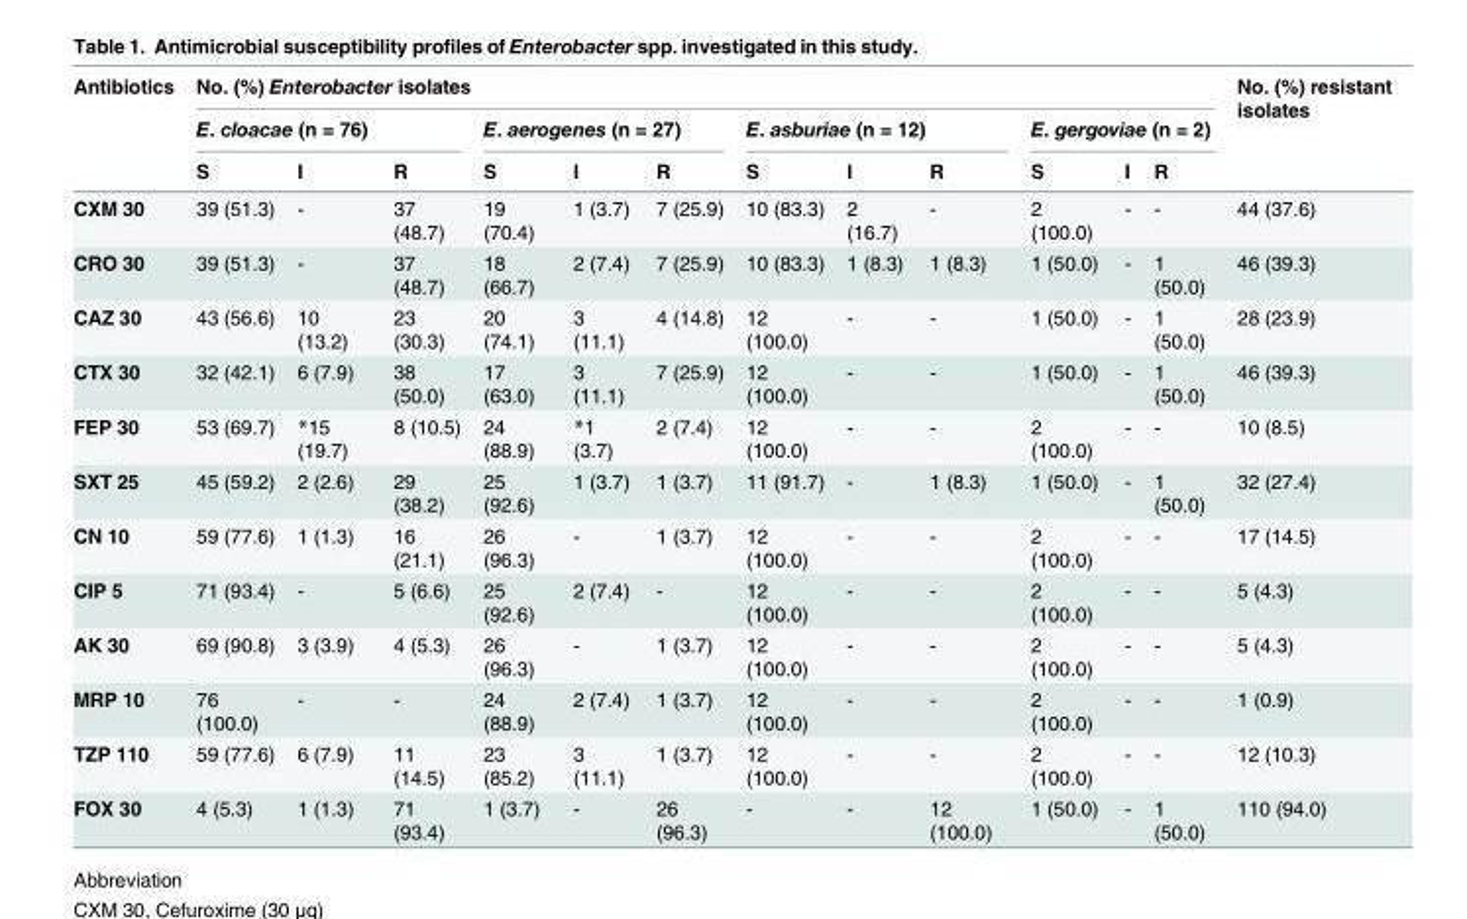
<table><thead><tr><td rowspan="3">Antibiotics</td><td colspan="12">No. (%) Enterobacter isolates</td><td rowspan="3">No. (%) resistant isolates</td></tr><tr><td colspan="3">E. cloacae (n = 76)</td><td colspan="3">E. aerogenes (n = 27)</td><td colspan="3">E. asburiae (n = 12)</td><td colspan="3">E. gergoviae (n = 2)</td></tr><tr><td>S</td><td>I</td><td>R</td><td>S</td><td>I</td><td>R</td><td>S</td><td>I</td><td>R</td><td>S</td><td>I</td><td>R</td></tr></thead><tbody><tr><td>CXM 30</td><td>39 (51.3)</td><td>-</td><td>37 (48.7)</td><td>19 (70.4)</td><td>1 (3.7)</td><td>7 (25.9)</td><td>10 (83.3)</td><td>2 (16.7)</td><td>-</td><td>2 (100.0)</td><td>-</td><td>-</td><td>44 (37.6)</td></tr><tr><td>CRO 30</td><td>39 (51.3)</td><td>-</td><td>37 (48.7)</td><td>18 (66.7)</td><td>2 (7.4)</td><td>7 (25.9)</td><td>10 (83.3)</td><td>1 (8.3)</td><td>1 (8.3)</td><td>1 (50.0)</td><td>-</td><td>1 (50.0)</td><td>46 (39.3)</td></tr><tr><td>CAZ 30</td><td>43 (56.6)</td><td>10 (13.2)</td><td>23 (30.3)</td><td>20 (74.1)</td><td>3 (11.1)</td><td>4 (14.8)</td><td>12 (100.0)</td><td>-</td><td>-</td><td>1 (50.0)</td><td>-</td><td>1 (50.0)</td><td>28 (23.9)</td></tr><tr><td>CTX 30</td><td>32 (42.1)</td><td>6 (7.9)</td><td>38 (50.0)</td><td>17 (63.0)</td><td>3 (11.1)</td><td>7 (25.9)</td><td>12 (100.0)</td><td>-</td><td>-</td><td>1 (50.0)</td><td>-</td><td>1 (50.0)</td><td>46 (39.3)</td></tr><tr><td>FEP 30</td><td>53 (69.7)</td><td>*15 (19.7)</td><td>8 (10.5)</td><td>24 (88.9)</td><td>*1 (3.7)</td><td>2 (7.4)</td><td>12 (100.0)</td><td>-</td><td>-</td><td>2 (100.0)</td><td>-</td><td>-</td><td>10 (8.5)</td></tr><tr><td>SXT 25</td><td>45 (59.2)</td><td>2 (2.6)</td><td>29 (38.2)</td><td>25 (92.6)</td><td>1 (3.7)</td><td>1 (3.7)</td><td>11 (91.7)</td><td>-</td><td>1 (8.3)</td><td>1 (50.0)</td><td>-</td><td>1 (50.0)</td><td>32 (27.4)</td></tr><tr><td>CN 10</td><td>59 (77.6)</td><td>1 (1.3)</td><td>16 (21.1)</td><td>26 (96.3)</td><td>-</td><td>1 (3.7)</td><td>12 (100.0)</td><td>-</td><td>-</td><td>2 (100.0)</td><td>-</td><td>-</td><td>17 (14.5)</td></tr><tr><td>CIP 5</td><td>71 (93.4)</td><td>-</td><td>5 (6.6)</td><td>25 (92.6)</td><td>2 (7.4)</td><td>-</td><td>12 (100.0)</td><td>-</td><td>-</td><td>2 (100.0)</td><td>-</td><td>-</td><td>5 (4.3)</td></tr><tr><td>AK 30</td><td>69 (90.8)</td><td>3 (3.9)</td><td>4 (5.3)</td><td>26 (96.3)</td><td>-</td><td>1 (3.7)</td><td>12 (100.0)</td><td>-</td><td>-</td><td>2 (100.0)</td><td>-</td><td>-</td><td>5 (4.3)</td></tr><tr><td>MRP 10</td><td>76 (100.0)</td><td>-</td><td>-</td><td>24 (88.9)</td><td>2 (7.4)</td><td>1 (3.7)</td><td>12 (100.0)</td><td>-</td><td>-</td><td>2 (100.0)</td><td>-</td><td>-</td><td>1 (0.9)</td></tr><tr><td>TZP 110</td><td>59 (77.6)</td><td>6 (7.9)</td><td>11 (14.5)</td><td>23 (85.2)</td><td>3 (11.1)</td><td>1 (3.7)</td><td>12 (100.0)</td><td>-</td><td>-</td><td>2 (100.0)</td><td>-</td><td>-</td><td>12 (10.3)</td></tr><tr><td>FOX 30</td><td>4 (5.3)</td><td>1 (1.3)</td><td>71 (93.4)</td><td>1 (3.7)</td><td>-</td><td>26 (96.3)</td><td>-</td><td>-</td><td>12 (100.0)</td><td>1 (50.0)</td><td>-</td><td>1 (50.0)</td><td>110 (94.0)</td></tr></tbody></table>